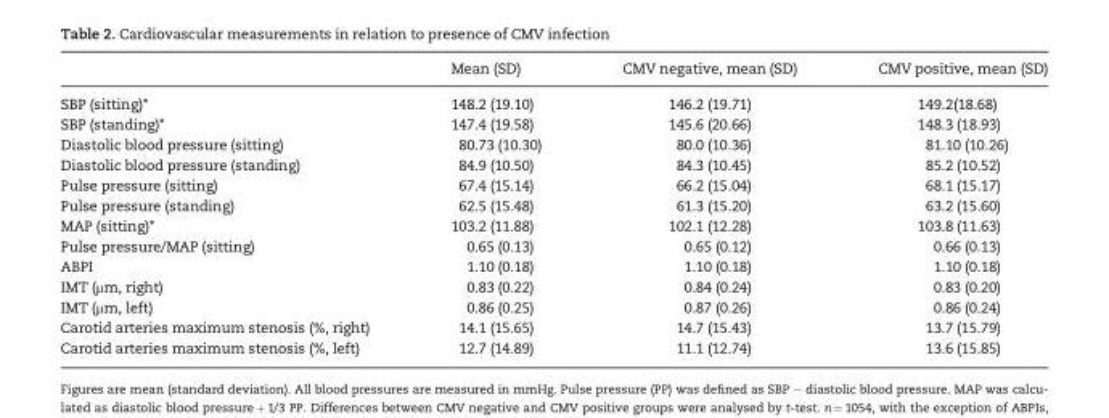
<table><thead><tr><td></td><td>Mean (SD)</td><td>CMV negative, mean (SD)</td><td>CMV positive, mean (SD)</td></tr></thead><tbody><tr><td>SBP (sitting)*</td><td>148.2 (19.10)</td><td>146.2 (19.71)</td><td>149.2(18.68)</td></tr><tr><td>SBP (standing)*</td><td>147.4 (19.58)</td><td>145.6 (20.66)</td><td>148.3 (18.93)</td></tr><tr><td>Diastolic blood pressure (sitting)</td><td>80.73 (10.30)</td><td>80.0 (10.36)</td><td>81.10 (10.26)</td></tr><tr><td>Diastolic blood pressure (standing)</td><td>84.9 (10.50)</td><td>84.3 (10.45)</td><td>85.2 (10.52)</td></tr><tr><td>Pulse pressure (sitting)</td><td>67.4 (15.14)</td><td>66.2 (15.04)</td><td>68.1 (15.17)</td></tr><tr><td>Pulse pressure (standing)</td><td>62.5 (15.48)</td><td>61.3 (15.20)</td><td>63.2 (15.60)</td></tr><tr><td>MAP (sitting)*</td><td>103.2 (11.88)</td><td>102.1 (12.28)</td><td>103.8 (11.63)</td></tr><tr><td>Pulse pressure/MAP (sitting)</td><td>0.65 (0.13)</td><td>0.65 (0.12)</td><td>0.66 (0.13)</td></tr><tr><td>ABPI</td><td>1.10 (0.18)</td><td>1.10 (0.18)</td><td>1.10 (0.18)</td></tr><tr><td>IMT (µm, right)</td><td>0.83 (0.22)</td><td>0.84 (0.24)</td><td>0.83 (0.20)</td></tr><tr><td>IMT (µm, left)</td><td>0.86 (0.25)</td><td>0.87 (0.26)</td><td>0.86 (0.24)</td></tr><tr><td>Carotid arteries maximum stenosis (%, right)</td><td>14.1 (15.65)</td><td>14.7 (15.43)</td><td>13.7 (15.79)</td></tr><tr><td>Carotid arteries maximum stenosis (%, left)</td><td>12.7 (14.89)</td><td>11.1 (12.74)</td><td>13.6 (15.85)</td></tr></tbody></table>